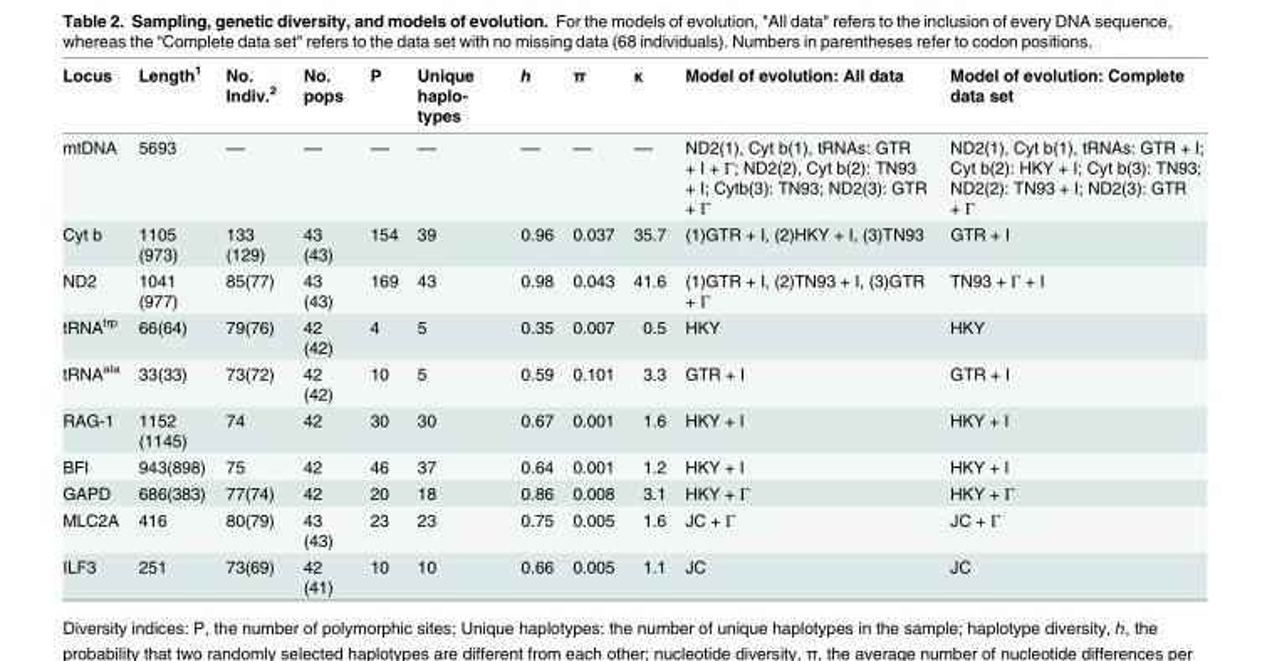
<table><thead><tr><td>Locus</td><td>Length<sup>1</sup></td><td>No. Indiv.<sup>2</sup></td><td>No. pops</td><td>P</td><td>Unique haplo- types</td><td>h</td><td>π</td><td>κ</td><td>Model of evolution: All data</td><td>Model of evolution: Complete data set</td></tr></thead><tbody><tr><td>mtDNA</td><td>5693</td><td>––</td><td>––</td><td>––</td><td>––</td><td>––</td><td>––</td><td>––</td><td>ND2(1), Cyt b(1), tRNAs: GTR + I + Γ; ND2(2), Cyt b(2): TN93 + I; Cytb(3): TN93; ND2(3): GTR + Γ</td><td>ND2(1), Cyt b(1), tRNAs: GTR + I; Cyt b(2): HKY + I; Cyt b(3): TN93; ND2(2): TN93 + I; ND2(3): GTR + Γ</td></tr><tr><td>Cyt b</td><td>1105 (973)</td><td>133 (129)</td><td>43 (43)</td><td>154</td><td>39</td><td>0.96</td><td>0.037</td><td>35.7</td><td>(1)GTR + I, (2)HKY + I, (3)TN93</td><td>GTR + I</td></tr><tr><td>ND2</td><td>1041 (977)</td><td>85(77)</td><td>43 (43)</td><td>169</td><td>43</td><td>0.98</td><td>0.043</td><td>41.6</td><td>(1)GTR + I, (2)TN93 + I, (3)GTR + Γ</td><td>TN93 + Γ + I</td></tr><tr><td>tRNA<sup>trp</sup></td><td>66(64)</td><td>79(76)</td><td>42 (42)</td><td>4</td><td>5</td><td>0.35</td><td>0.007</td><td>0.5</td><td>HKY</td><td>HKY</td></tr><tr><td>tRNA<sup>ala</sup></td><td>33(33)</td><td>73(72)</td><td>42 (42)</td><td>10</td><td>5</td><td>0.59</td><td>0.101</td><td>3.3</td><td>GTR + I</td><td>GTR + I</td></tr><tr><td>RAG-1</td><td>1152 (1145)</td><td>74</td><td>42</td><td>30</td><td>30</td><td>0.67</td><td>0.001</td><td>1.6</td><td>HKY + I</td><td>HKY + I</td></tr><tr><td>BFI</td><td>943(898)</td><td>75</td><td>42</td><td>46</td><td>37</td><td>0.64</td><td>0.001</td><td>1.2</td><td>HKY + I</td><td>HKY + I</td></tr><tr><td>GAPD</td><td>686(383)</td><td>77(74)</td><td>42</td><td>20</td><td>18</td><td>0.86</td><td>0.008</td><td>3.1</td><td>HKY + Γ</td><td>HKY + Γ</td></tr><tr><td>MLC2A</td><td>416</td><td>80(79)</td><td>43 (43)</td><td>23</td><td>23</td><td>0.75</td><td>0.005</td><td>1.6</td><td>JC + Γ</td><td>JC + Γ</td></tr><tr><td>ILF3</td><td>251</td><td>73(69)</td><td>42 (41)</td><td>10</td><td>10</td><td>0.66</td><td>0.005</td><td>1.1</td><td>JC</td><td>JC</td></tr></tbody></table>